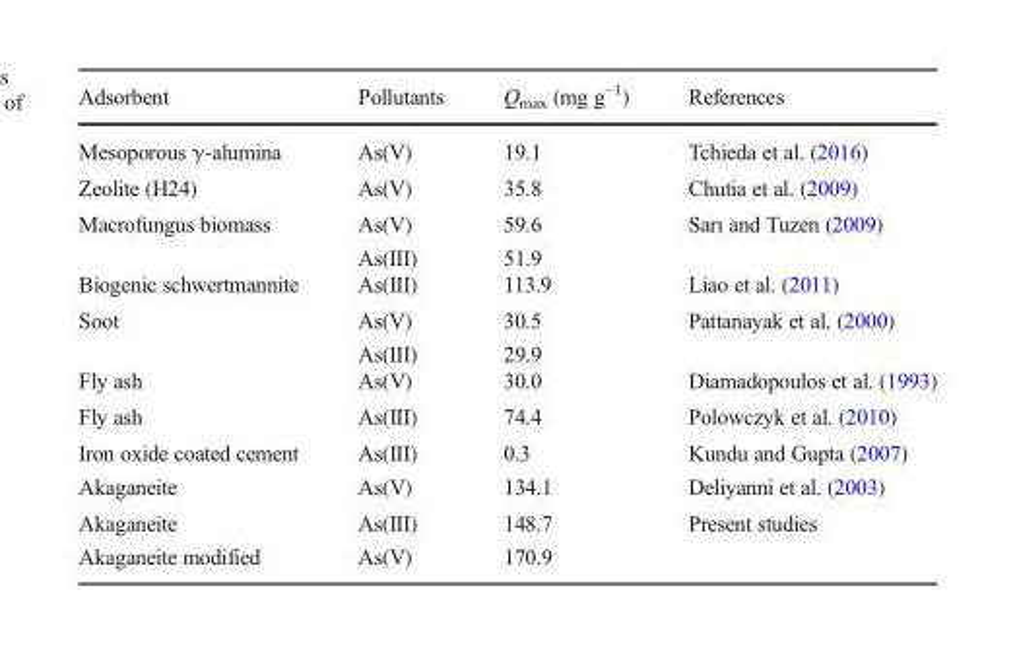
<table><thead><tr><td>Adsorbent</td><td>Pollutants</td><td>Q<sub>max</sub> (mg g<sup>−1</sup>)</td><td>References</td></tr></thead><tbody><tr><td>Mesoporous γ-alumina</td><td>As(V)</td><td>19.1</td><td>Tchieda et al. (2016)</td></tr><tr><td>Zeolite (H24)</td><td>As(V)</td><td>35.8</td><td>Chutia et al. (2009)</td></tr><tr><td>Macrofungus biomass</td><td>As(V) As(III)</td><td>59.6 51.9</td><td>Sarı and Tuzen (2009)</td></tr><tr><td>Biogenic schwertmannite</td><td>As(III)</td><td>113.9</td><td>Liao et al. (2011)</td></tr><tr><td>Soot</td><td>As(V) As(III)</td><td>30.5 29.9</td><td>Pattanayak et al. (2000)</td></tr><tr><td>Fly ash</td><td>As(V)</td><td>30.0</td><td>Diamadopoulos et al. (1993)</td></tr><tr><td>Fly ash</td><td>As(III)</td><td>74.4</td><td>Polowczyk et al. (2010)</td></tr><tr><td>Iron oxide coated cement</td><td>As(III)</td><td>0.3</td><td>Kundu and Gupta (2007)</td></tr><tr><td>Akaganeite</td><td>As(V)</td><td>134.1</td><td>Deliyanni et al. (2003)</td></tr><tr><td>Akaganeite</td><td>As(III)</td><td>148.7</td><td>Present studies</td></tr><tr><td>Akaganeite modified</td><td>As(V)</td><td>170.9</td><td></td></tr></tbody></table>